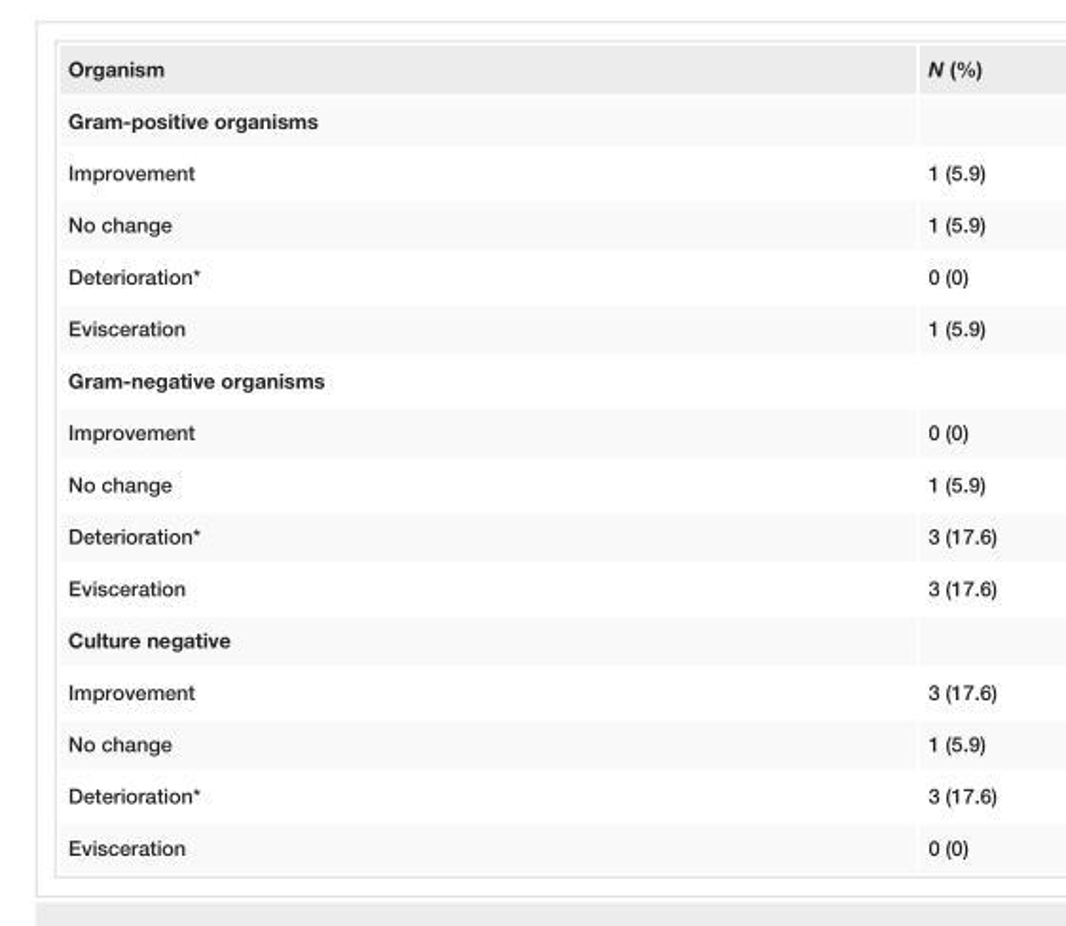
<table><tbody><tr><td>Organism</td><td>N (%)</td></tr><tr><td colspan="2">Gram-positive organisms</td></tr><tr><td>Improvement</td><td>1 (5.9)</td></tr><tr><td>No change</td><td>1 (5.9)</td></tr><tr><td>Deterioration*</td><td>0 (0)</td></tr><tr><td>Evisceration</td><td>1 (5.9)</td></tr><tr><td colspan="2">Gram-negative organisms</td></tr><tr><td>Improvement</td><td>0 (0)</td></tr><tr><td>No change</td><td>1 (5.9)</td></tr><tr><td>Deterioration*</td><td>3 (17.6)</td></tr><tr><td>Evisceration</td><td>3 (17.6)</td></tr><tr><td colspan="2">Culture negative</td></tr><tr><td>Improvement</td><td>3 (17.6)</td></tr><tr><td>No change</td><td>1 (5.9)</td></tr><tr><td>Deterioration*</td><td>3 (17.6)</td></tr><tr><td>Evisceration</td><td>0 (0)</td></tr></tbody></table>